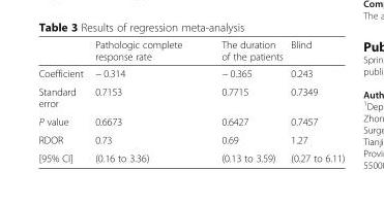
<table><thead><tr><td></td><td>Pathologic complete response rate</td><td>The duration of the patients</td><td>Blind</td></tr></thead><tbody><tr><td>Coefficient</td><td>− 0.314</td><td>− 0.365</td><td>0.243</td></tr><tr><td>Standard error</td><td>0.7153</td><td>0.7715</td><td>0.7349</td></tr><tr><td>P value</td><td>0.6673</td><td>0.6427</td><td>0.7457</td></tr><tr><td>RDOR</td><td>0.73</td><td>0.69</td><td>1.27</td></tr><tr><td>[95% CI]</td><td>(0.16 to 3.36)</td><td>(0.13 to 3.59)</td><td>(0.27 to 6.11)</td></tr></tbody></table>